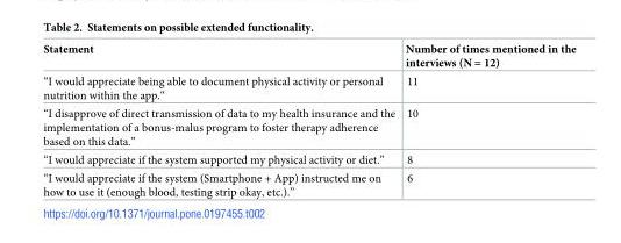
<table><thead><tr><td>Statement</td><td>Number of times mentioned in the interviews (N = 12)</td></tr></thead><tbody><tr><td>“I would appreciate being able to document physical activity or personal nutrition within the app.“</td><td>11</td></tr><tr><td>“I disapprove of direct transmission of data to my health insurance and the implementation of a bonus-malus program to foster therapy adherence based on this data.”</td><td>10</td></tr><tr><td>“I would appreciate if the system supported my physical activity or diet.”</td><td>8</td></tr><tr><td>“I would appreciate if the system (Smartphone + App) instructed me on how to use it (enough blood, testing strip okay, etc.).”</td><td>6</td></tr></tbody></table>